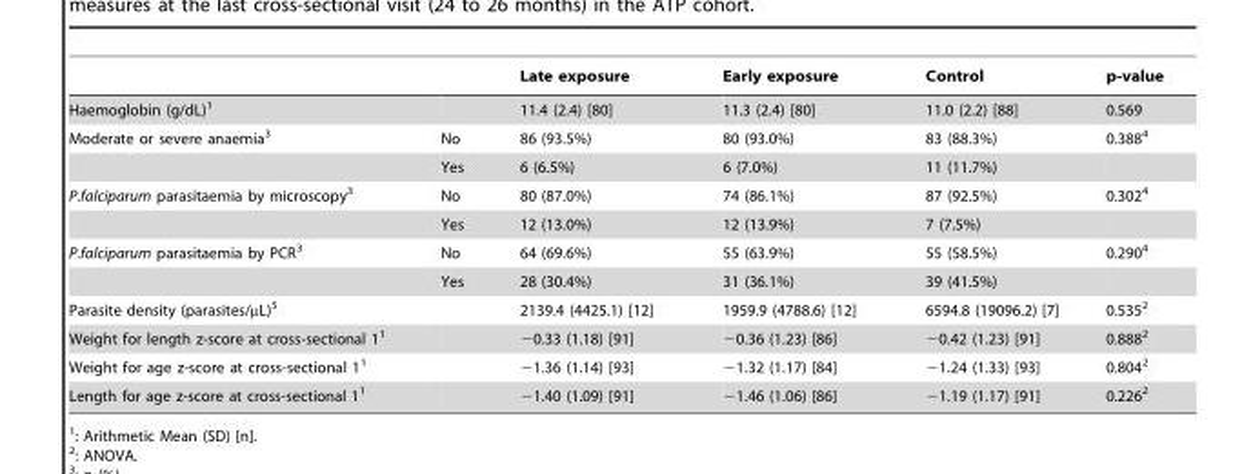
<table><thead><tr><td></td><td></td><td>Late exposure</td><td>Early exposure</td><td>Control</td><td>p-value</td></tr></thead><tbody><tr><td>Haemoglobin (g/dL)<sup>1</sup></td><td></td><td>11.4 (2.4) [80]</td><td>11.3 (2.4) [80]</td><td>11.0 (2.2) [88]</td><td>0.569</td></tr><tr><td rowspan="2">Moderate or severe anaemia<sup>3</sup></td><td>No</td><td>86 (93.5%)</td><td>80 (93.0%)</td><td>83 (88.3%)</td><td>0.388<sup>4</sup></td></tr><tr><td>Yes</td><td>6 (6.5%)</td><td>6 (7.0%)</td><td>11 (11.7%)</td><td></td></tr><tr><td rowspan="2">P.falciparum parasitaemia by microscopy<sup>3</sup></td><td>No</td><td>80 (87.0%)</td><td>74 (86.1%)</td><td>87 (92.5%)</td><td>0.302<sup>4</sup></td></tr><tr><td>Yes</td><td>12 (13.0%)</td><td>12 (13.9%)</td><td>7 (7.5%)</td><td></td></tr><tr><td rowspan="2">P.falciparum parasitaemia by PCR<sup>3</sup></td><td>No</td><td>64 (69.6%)</td><td>55 (63.9%)</td><td>55 (58.5%)</td><td>0.290<sup>4</sup></td></tr><tr><td>Yes</td><td>28 (30.4%)</td><td>31 (36.1%)</td><td>39 (41.5%)</td><td></td></tr><tr><td>Parasite density (parasites/µL)<sup>5</sup></td><td></td><td>2139.4 (4425.1) [12]</td><td>1959.9 (4788.6) [12]</td><td>6594.8 (19096.2) [7]</td><td>0.535<sup>2</sup></td></tr><tr><td>Weight for length z-score at cross-sectional 1<sup>1</sup></td><td></td><td>−0.33 (1.18) [91]</td><td>−0.36 (1.23) [86]</td><td>−0.42 (1.23) [91]</td><td>0.888<sup>2</sup></td></tr><tr><td>Weight for age z-score at cross-sectional 1<sup>1</sup></td><td></td><td>−1.36 (1.14) [93]</td><td>−1.32 (1.17) [84]</td><td>−1.24 (1.33) [93]</td><td>0.804<sup>2</sup></td></tr><tr><td>Length for age z-score at cross-sectional 1<sup>1</sup></td><td></td><td>−1.40 (1.09) [91]</td><td>−1.46 (1.06) [86]</td><td>−1.19 (1.17) [91]</td><td>0.226<sup>2</sup></td></tr></tbody></table>